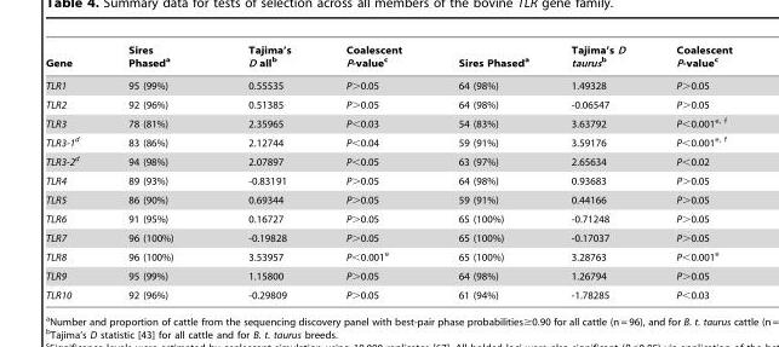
<table><thead><tr><td>Gene</td><td>Sires Phased<sup>a</sup></td><td>Tajima’s D all<sup>b</sup></td><td>Coalescent P-value<sup>c</sup></td><td>Sires Phased<sup>a</sup></td><td>Tajima’s D taurusb</td><td>Coalescent P-value<sup>c</sup></td></tr></thead><tbody><tr><td>TLR1</td><td>95 (99%)</td><td>0.55535</td><td>P&gt;0.05</td><td>64 (98%)</td><td>1.49328</td><td>P&gt;0.05</td></tr><tr><td>TLR2</td><td>92 (96%)</td><td>0.51385</td><td>P&gt;0.05</td><td>64 (98%)</td><td>-0.06547</td><td>P&gt;0.05</td></tr><tr><td>TLR3</td><td>78 (81%)</td><td>2.35965</td><td>P&lt;0.03</td><td>54 (83%)</td><td>3.63792</td><td>P&lt;0.001e, f</td></tr><tr><td>TLR3-1d</td><td>83 (86%)</td><td>2.12744</td><td>P&lt;0.04</td><td>59 (91%)</td><td>3.59176</td><td>P&lt;0.001e, f</td></tr><tr><td>TLR3-2d</td><td>94 (98%)</td><td>2.07897</td><td>P&lt;0.05</td><td>63 (97%)</td><td>2.65634</td><td>P&lt;0.02</td></tr><tr><td>TLR4</td><td>89 (93%)</td><td>-0.83191</td><td>P&gt;0.05</td><td>64 (98%)</td><td>0.93683</td><td>P&gt;0.05</td></tr><tr><td>TLR5</td><td>86 (90%)</td><td>0.69344</td><td>P&gt;0.05</td><td>59 (91%)</td><td>0.44166</td><td>P&gt;0.05</td></tr><tr><td>TLR6</td><td>91 (95%)</td><td>0.16727</td><td>P&gt;0.05</td><td>65 (100%)</td><td>-0.71248</td><td>P&gt;0.05</td></tr><tr><td>TLR7</td><td>96 (100%)</td><td>-0.19828</td><td>P&gt;0.05</td><td>65 (100%)</td><td>-0.17037</td><td>P&gt;0.05</td></tr><tr><td>TLR8</td><td>96 (100%)</td><td>3.53957</td><td>P&lt;0.001<sup>e</sup></td><td>65 (100%)</td><td>3.28763</td><td>P&lt;0.001<sup>e</sup></td></tr><tr><td>TLR9</td><td>95 (99%)</td><td>1.15800</td><td>P&gt;0.05</td><td>64 (98%)</td><td>1.26794</td><td>P&gt;0.05</td></tr><tr><td>TLR10</td><td>92 (96%)</td><td>-0.29809</td><td>P&gt;0.05</td><td>61 (94%)</td><td>-1.78285</td><td>P&lt;0.03</td></tr></tbody></table>